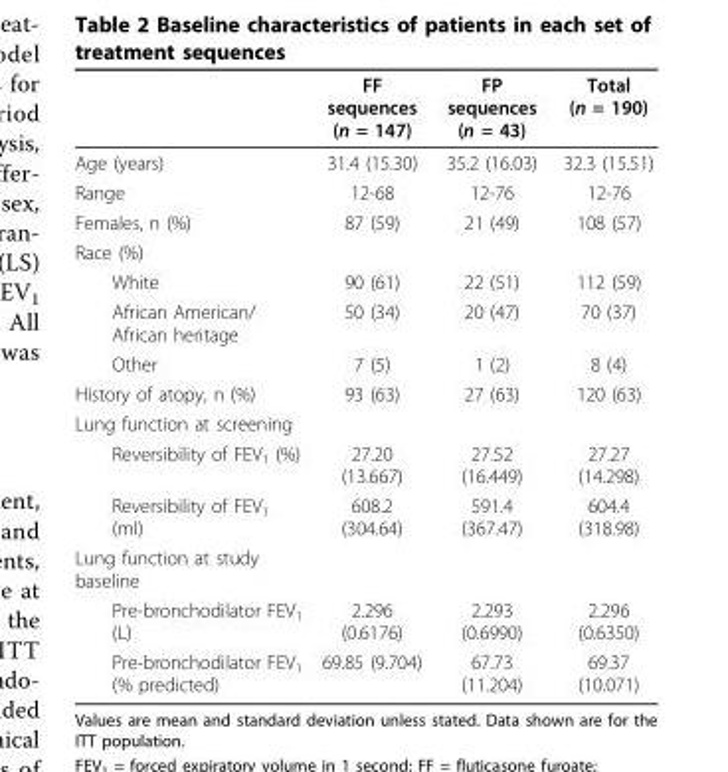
<table><thead><tr><td></td><td>FF sequences (n = 147)</td><td>FP sequences (n = 43)</td><td>Total (n = 190)</td></tr></thead><tbody><tr><td>Age (years)</td><td>31.4 (15.30)</td><td>35.2 (16.03)</td><td>32.3 (15.51)</td></tr><tr><td>Range</td><td>12-68</td><td>12-76</td><td>12-76</td></tr><tr><td>Females, n (%)</td><td>87 (59)</td><td>21 (49)</td><td>108 (57)</td></tr><tr><td colspan="4">Race (%)</td></tr><tr><td>White</td><td>90 (61)</td><td>22 (51)</td><td>112 (59)</td></tr><tr><td>African American/ African heritage</td><td>50 (34)</td><td>20 (47)</td><td>70 (37)</td></tr><tr><td>Other</td><td>7 (5)</td><td>1 (2)</td><td>8 (4)</td></tr><tr><td>History of atopy, n (%)</td><td>93 (63)</td><td>27 (63)</td><td>120 (63)</td></tr><tr><td colspan="4">Lung function at screening</td></tr><tr><td>Reversibility of FEV<sub>1</sub> (%)</td><td>27.20 (13.667)</td><td>27.52 (16.449)</td><td>27.27 (14.298)</td></tr><tr><td>Reversibility of FEV<sub>1</sub> (ml)</td><td>608.2 (304.64)</td><td>591.4 (367.47)</td><td>604.4 (318.98)</td></tr><tr><td colspan="4">Lung function at study baseline</td></tr><tr><td>Pre-bronchodilator FEV<sub>1</sub> (L)</td><td>2.296 (0.6176)</td><td>2.293 (0.6990)</td><td>2.296 (0.6350)</td></tr><tr><td>Pre-bronchodilator FEV<sub>1</sub> (% predicted)</td><td>69.85 (9.704)</td><td>67.73 (11.204)</td><td>69.37 (10.071)</td></tr></tbody></table>